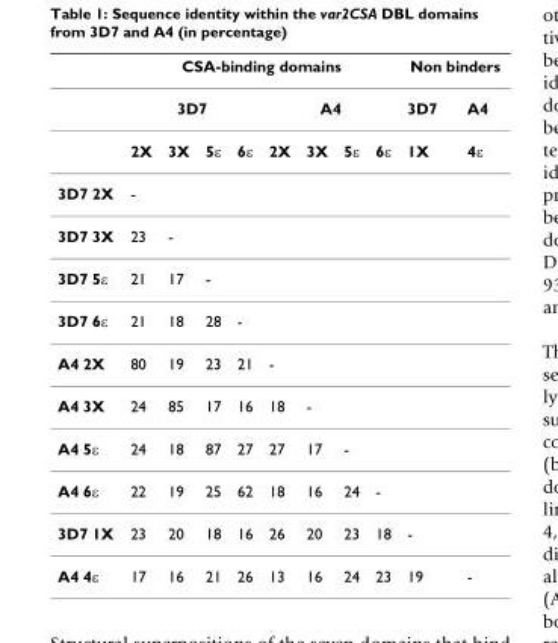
<table><thead><tr><td rowspan="3"></td><td colspan="8">CSA-binding domains</td><td colspan="2">Non binders</td></tr><tr><td colspan="4">3D7</td><td colspan="4">A4</td><td rowspan="2">3D7 1X</td><td rowspan="2">A4 4ε</td></tr><tr><td>2X</td><td>3X</td><td>5ε</td><td>6ε</td><td>2X</td><td>3X</td><td>5ε</td><td>6ε</td></tr></thead><tbody><tr><td>3D7 2X</td><td>-</td><td></td><td></td><td></td><td></td><td></td><td></td><td></td><td></td><td></td></tr><tr><td>3D7 3X</td><td>23</td><td>-</td><td></td><td></td><td></td><td></td><td></td><td></td><td></td><td></td></tr><tr><td>3D7 5ε</td><td>21</td><td>17</td><td>-</td><td></td><td></td><td></td><td></td><td></td><td></td><td></td></tr><tr><td>3D7 6ε</td><td>21</td><td>18</td><td>28</td><td>-</td><td></td><td></td><td></td><td></td><td></td><td></td></tr><tr><td>A4 2X</td><td>80</td><td>19</td><td>23</td><td>21</td><td>-</td><td></td><td></td><td></td><td></td><td></td></tr><tr><td>A4 3X</td><td>24</td><td>85</td><td>17</td><td>16</td><td>18</td><td>-</td><td></td><td></td><td></td><td></td></tr><tr><td>A4 5ε</td><td>24</td><td>18</td><td>87</td><td>27</td><td>27</td><td>17</td><td>-</td><td></td><td></td><td></td></tr><tr><td>A4 6ε</td><td>22</td><td>19</td><td>25</td><td>62</td><td>18</td><td>16</td><td>24</td><td>-</td><td></td><td></td></tr><tr><td>3D7 1X</td><td>23</td><td>20</td><td>18</td><td>16</td><td>26</td><td>20</td><td>23</td><td>18</td><td>-</td><td></td></tr><tr><td>A4 4ε</td><td>17</td><td>16</td><td>21</td><td>26</td><td>13</td><td>16</td><td>24</td><td>23</td><td>19</td><td>-</td></tr></tbody></table>